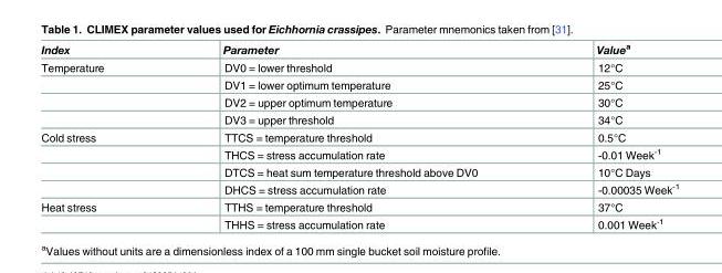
<table><thead><tr><td>Index</td><td>Parameter</td><td>Value<sup>a</sup></td></tr></thead><tbody><tr><td rowspan="4">Temperature</td><td>DV0 = lower threshold</td><td>12°C</td></tr><tr><td>DV1 = lower optimum temperature</td><td>25°C</td></tr><tr><td>DV2 = upper optimum temperature</td><td>30°C</td></tr><tr><td>DV3 = upper threshold</td><td>34°C</td></tr><tr><td rowspan="4">Cold stress</td><td>TTCS = temperature threshold</td><td>0.5°C</td></tr><tr><td>THCS = stress accumulation rate</td><td>-0.01 Week<sup>-1</sup></td></tr><tr><td>DTCS = heat sum temperature threshold above DV0</td><td>10°C Days</td></tr><tr><td>DHCS = stress accumulation rate</td><td>-0.00035 Week<sup>-1</sup></td></tr><tr><td rowspan="2">Heat stress</td><td>TTHS = temperature threshold</td><td>37°C</td></tr><tr><td>THHS = stress accumulation rate</td><td>0.001 Week<sup>-1</sup></td></tr></tbody></table>